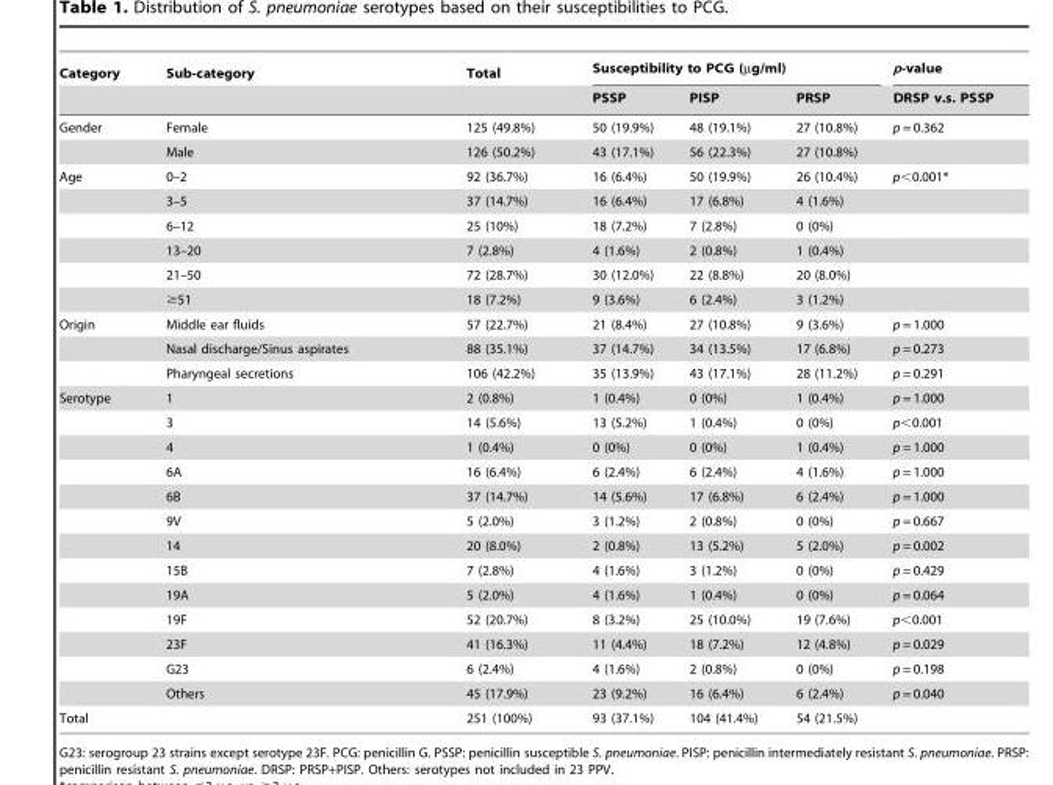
<table><thead><tr><td rowspan="2">Category</td><td rowspan="2">Sub-category</td><td rowspan="2">Total</td><td colspan="3">Susceptibility to PCG (µg/ml)</td><td rowspan="2">p-value DRSP v.s. PSSP</td></tr><tr><td>PSSP</td><td>PISP</td><td>PRSP</td></tr></thead><tbody><tr><td rowspan="2">Gender</td><td>Female</td><td>125 (49.8%)</td><td>50 (19.9%)</td><td>48 (19.1%)</td><td>27 (10.8%)</td><td>p = 0.362</td></tr><tr><td>Male</td><td>126 (50.2%)</td><td>43 (17.1%)</td><td>56 (22.3%)</td><td>27 (10.8%)</td><td></td></tr><tr><td rowspan="6">Age</td><td>0–2</td><td>92 (36.7%)</td><td>16 (6.4%)</td><td>50 (19.9%)</td><td>26 (10.4%)</td><td>p&lt;0.001*</td></tr><tr><td>3–5</td><td>37 (14.7%)</td><td>16 (6.4%)</td><td>17 (6.8%)</td><td>4 (1.6%)</td><td></td></tr><tr><td>6–12</td><td>25 (10%)</td><td>18 (7.2%)</td><td>7 (2.8%)</td><td>0 (0%)</td><td></td></tr><tr><td>13–20</td><td>7 (2.8%)</td><td>4 (1.6%)</td><td>2 (0.8%)</td><td>1 (0.4%)</td><td></td></tr><tr><td>21–50</td><td>72 (28.7%)</td><td>30 (12.0%)</td><td>22 (8.8%)</td><td>20 (8.0%)</td><td></td></tr><tr><td>≥51</td><td>18 (7.2%)</td><td>9 (3.6%)</td><td>6 (2.4%)</td><td>3 (1.2%)</td><td></td></tr><tr><td rowspan="3">Origin</td><td>Middle ear fluids</td><td>57 (22.7%)</td><td>21 (8.4%)</td><td>27 (10.8%)</td><td>9 (3.6%)</td><td>p = 1.000</td></tr><tr><td>Nasal discharge/Sinus aspirates</td><td>88 (35.1%)</td><td>37 (14.7%)</td><td>34 (13.5%)</td><td>17 (6.8%)</td><td>p = 0.273</td></tr><tr><td>Pharyngeal secretions</td><td>106 (42.2%)</td><td>35 (13.9%)</td><td>43 (17.1%)</td><td>28 (11.2%)</td><td>p = 0.291</td></tr><tr><td rowspan="13">Serotype</td><td>1</td><td>2 (0.8%)</td><td>1 (0.4%)</td><td>0 (0%)</td><td>1 (0.4%)</td><td>p = 1.000</td></tr><tr><td>3</td><td>14 (5.6%)</td><td>13 (5.2%)</td><td>1 (0.4%)</td><td>0 (0%)</td><td>p&lt;0.001</td></tr><tr><td>4</td><td>1 (0.4%)</td><td>0 (0%)</td><td>0 (0%)</td><td>1 (0.4%)</td><td>p = 1.000</td></tr><tr><td>6A</td><td>16 (6.4%)</td><td>6 (2.4%)</td><td>6 (2.4%)</td><td>4 (1.6%)</td><td>p = 1.000</td></tr><tr><td>6B</td><td>37 (14.7%)</td><td>14 (5.6%)</td><td>17 (6.8%)</td><td>6 (2.4%)</td><td>p = 1.000</td></tr><tr><td>9V</td><td>5 (2.0%)</td><td>3 (1.2%)</td><td>2 (0.8%)</td><td>0 (0%)</td><td>p = 0.667</td></tr><tr><td>14</td><td>20 (8.0%)</td><td>2 (0.8%)</td><td>13 (5.2%)</td><td>5 (2.0%)</td><td>p = 0.002</td></tr><tr><td>15B</td><td>7 (2.8%)</td><td>4 (1.6%)</td><td>3 (1.2%)</td><td>0 (0%)</td><td>p = 0.429</td></tr><tr><td>19A</td><td>5 (2.0%)</td><td>4 (1.6%)</td><td>1 (0.4%)</td><td>0 (0%)</td><td>p = 0.064</td></tr><tr><td>19F</td><td>52 (20.7%)</td><td>8 (3.2%)</td><td>25 (10.0%)</td><td>19 (7.6%)</td><td>p&lt;0.001</td></tr><tr><td>23F</td><td>41 (16.3%)</td><td>11 (4.4%)</td><td>18 (7.2%)</td><td>12 (4.8%)</td><td>p = 0.029</td></tr><tr><td>G23</td><td>6 (2.4%)</td><td>4 (1.6%)</td><td>2 (0.8%)</td><td>0 (0%)</td><td>p = 0.198</td></tr><tr><td>Others</td><td>45 (17.9%)</td><td>23 (9.2%)</td><td>16 (6.4%)</td><td>6 (2.4%)</td><td>p = 0.040</td></tr><tr><td>Total</td><td></td><td>251 (100%)</td><td>93 (37.1%)</td><td>104 (41.4%)</td><td>54 (21.5%)</td><td></td></tr></tbody></table>